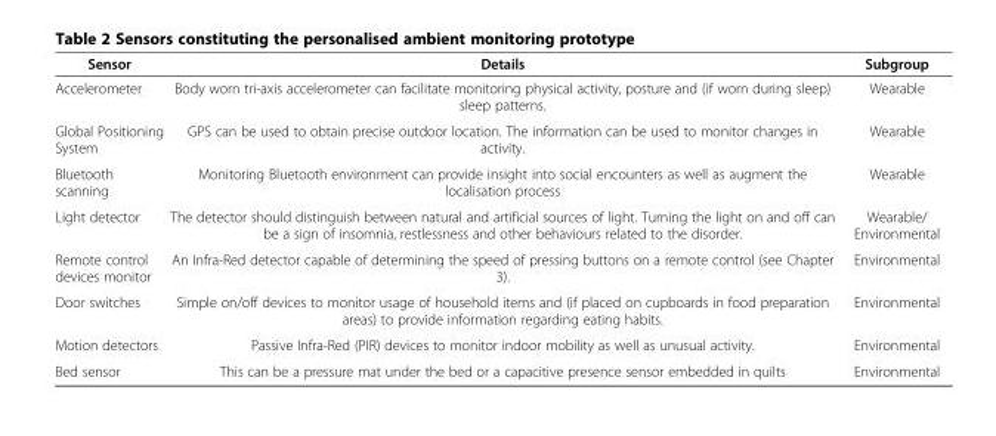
<table><thead><tr><td>Sensor</td><td>Details</td><td>Subgroup</td></tr></thead><tbody><tr><td>Accelerometer</td><td>Body worn tri-axis accelerometer can facilitate monitoring physical activity, posture and (if worn during sleep) sleep patterns.</td><td>Wearable</td></tr><tr><td>Global Positioning System</td><td>GPS can be used to obtain precise outdoor location. The information can be used to monitor changes in activity.</td><td>Wearable</td></tr><tr><td>Bluetooth scanning</td><td>Monitoring Bluetooth environment can provide insight into social encounters as well as augment the localisation process</td><td>Wearable</td></tr><tr><td>Light detector</td><td>The detector should distinguish between natural and artificial sources of light. Turning the light on and off can be a sign of insomnia, restlessness and other behaviours related to the disorder.</td><td>Wearable/ Environmental</td></tr><tr><td>Remote control devices monitor</td><td>An Infra-Red detector capable of determining the speed of pressing buttons on a remote control (see Chapter 3).</td><td>Environmental</td></tr><tr><td>Door switches</td><td>Simple on/off devices to monitor usage of household items and (if placed on cupboards in food preparation areas) to provide information regarding eating habits.</td><td>Environmental</td></tr><tr><td>Motion detectors</td><td>Passive Infra-Red (PIR) devices to monitor indoor mobility as well as unusual activity.</td><td>Environmental</td></tr><tr><td>Bed sensor</td><td>This can be a pressure mat under the bed or a capacitive presence sensor embedded in quilts</td><td>Environmental</td></tr></tbody></table>